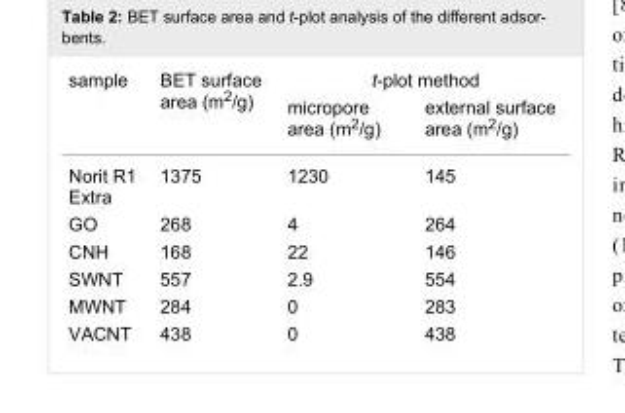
<table><tbody><tr><td rowspan="2">sample</td><td rowspan="2">BET surface area (m<sup>2</sup>/g)</td><td colspan="2">t-plot method</td></tr><tr><td>micropore area (m<sup>2</sup>/g)</td><td>external surface area (m<sup>2</sup>/g)</td></tr><tr><td>Norit R1 Extra</td><td>1375</td><td>1230</td><td>145</td></tr><tr><td>GO</td><td>268</td><td>4</td><td>264</td></tr><tr><td>CNH</td><td>168</td><td>22</td><td>146</td></tr><tr><td>SWNT</td><td>557</td><td>2.9</td><td>554</td></tr><tr><td>MWNT</td><td>284</td><td>0</td><td>283</td></tr><tr><td>VACNT</td><td>438</td><td>0</td><td>438</td></tr></tbody></table>